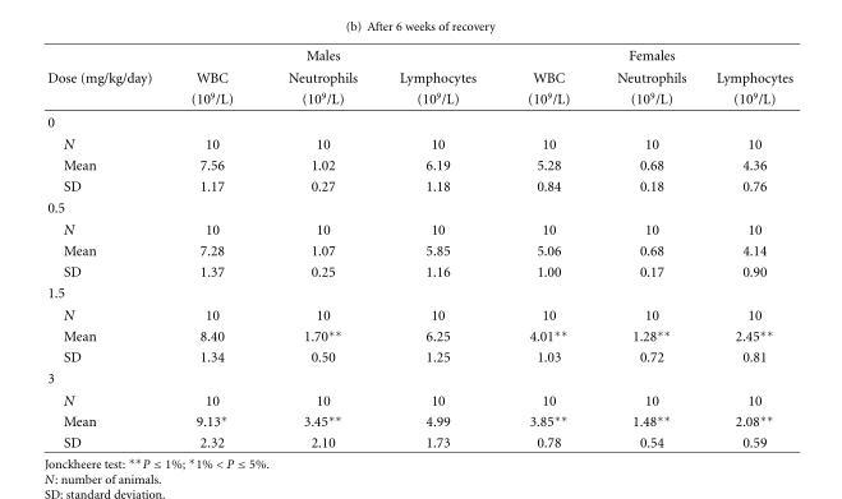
<table><thead><tr><td rowspan="3">Dose (mg/kg/day)</td><td rowspan="3">WBC (10<sup>9</sup>/L)</td><td rowspan="3">Males Neutrophils (10<sup>9</sup>/L)</td><td rowspan="3">Lymphocytes (10<sup>9</sup>/L)</td><td rowspan="3">WBC (10<sup>9</sup>/L)</td><td rowspan="3">Females Neutrophils (10<sup>9</sup>/L)</td><td rowspan="3">Lymphocytes (10<sup>9</sup>/L)</td></tr><tr></tr><tr></tr></thead><tbody><tr><td colspan="7">0</td></tr><tr><td>N</td><td>10</td><td>10</td><td>10</td><td>10</td><td>10</td><td>10</td></tr><tr><td>Mean</td><td>7.56</td><td>1.02</td><td>6.19</td><td>5.28</td><td>0.68</td><td>4.36</td></tr><tr><td>SD</td><td>1.17</td><td>0.27</td><td>1.18</td><td>0.84</td><td>0.18</td><td>0.76</td></tr><tr><td colspan="7">0.5</td></tr><tr><td>N</td><td>10</td><td>10</td><td>10</td><td>10</td><td>10</td><td>10</td></tr><tr><td>Mean</td><td>7.28</td><td>1.07</td><td>5.85</td><td>5.06</td><td>0.68</td><td>4.14</td></tr><tr><td>SD</td><td>1.37</td><td>0.25</td><td>1.16</td><td>1.00</td><td>0.17</td><td>0.90</td></tr><tr><td colspan="7">1.5</td></tr><tr><td>N</td><td>10</td><td>10</td><td>10</td><td>10</td><td>10</td><td>10</td></tr><tr><td>Mean</td><td>8.40</td><td>1.70∗∗</td><td>6.25</td><td>4.01∗∗</td><td>1.28∗∗</td><td>2.45∗∗</td></tr><tr><td>SD</td><td>1.34</td><td>0.50</td><td>1.25</td><td>1.03</td><td>0.72</td><td>0.81</td></tr><tr><td colspan="7">3</td></tr><tr><td>N</td><td>10</td><td>10</td><td>10</td><td>10</td><td>10</td><td>10</td></tr><tr><td>Mean</td><td>9.13∗</td><td>3.45∗∗</td><td>4.99</td><td>3.85∗∗</td><td>1.48∗∗</td><td>2.08∗∗</td></tr><tr><td>SD</td><td>2.32</td><td>2.10</td><td>1.73</td><td>0.78</td><td>0.54</td><td>0.59</td></tr></tbody></table>